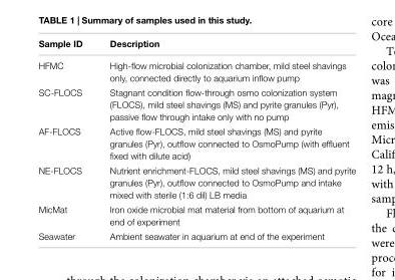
<table><thead><tr><td>Sample ID</td><td>Description</td></tr></thead><tbody><tr><td>HFMC</td><td>High-flow microbial colonization chamber, mild steel shavings only, connected directly to aquarium inflow pump</td></tr><tr><td>SC-FLOCS</td><td>Stagnant condition flow-through osmo colonization system (FLOCS), mild steel shavings (MS) and pyrite granules (Pyr), passive flow through intake only with no pump</td></tr><tr><td>AF-FLOCS</td><td>Active flow-FLOCS, mild steel shavings (MS) and pyrite granules (Pyr), outflow connected to OsmoPump (with effluent fixed with dilute acid)</td></tr><tr><td>NE-FLOCS</td><td>Nutrient enrichment-FLOCS, mild steel shavings (MS) and pyrite granules (Pyr), outflow connected to OsmoPump and intake mixed with sterile (1:6 dil) LB media</td></tr><tr><td>MicMat</td><td>Iron oxide microbial mat material from bottom of aquarium at end of experiment</td></tr><tr><td>Seawater</td><td>Ambient seawater in aquarium at end of the experiment</td></tr></tbody></table>